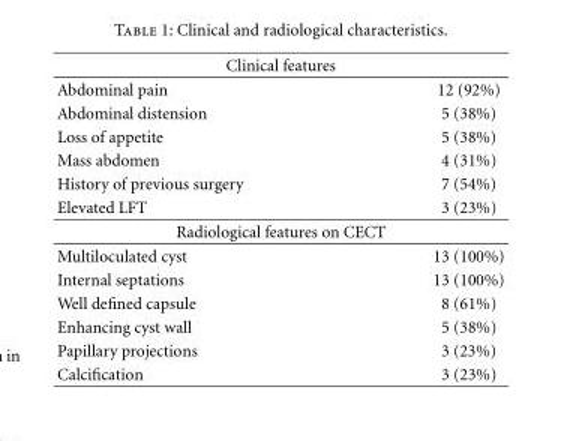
<table><thead><tr><td colspan="2">Clinical features</td></tr><tr><td>Abdominal pain</td><td>12 (92%)</td></tr></thead><tbody><tr><td>Abdominal distension</td><td>5 (38%)</td></tr><tr><td>Loss of appetite</td><td>5 (38%)</td></tr><tr><td>Mass abdomen</td><td>4 (31%)</td></tr><tr><td>History of previous surgery</td><td>7 (54%)</td></tr><tr><td>Elevated LFT</td><td>3 (23%)</td></tr><tr><td colspan="2">Radiological features on CECT</td></tr><tr><td>Multiloculated cyst</td><td>13 (100%)</td></tr><tr><td>Internal septations</td><td>13 (100%)</td></tr><tr><td>Well defined capsule</td><td>8 (61%)</td></tr><tr><td>Enhancing cyst wall</td><td>5 (38%)</td></tr><tr><td>Papillary projections</td><td>3 (23%)</td></tr><tr><td>Calcification</td><td>3 (23%)</td></tr></tbody></table>